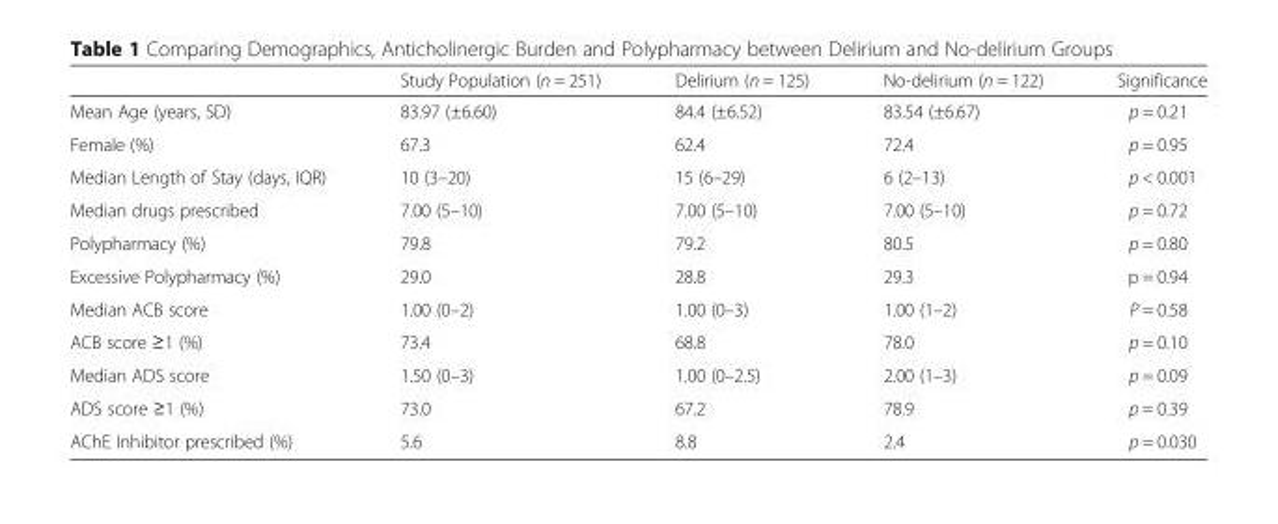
<table><thead><tr><td></td><td>Study Population (n = 251)</td><td>Delirium (n = 125)</td><td>No-delirium (n = 122)</td><td>Significance</td></tr></thead><tbody><tr><td>Mean Age (years, SD)</td><td>83.97 (±6.60)</td><td>84.4 (±6.52)</td><td>83.54 (±6.67)</td><td>p = 0.21</td></tr><tr><td>Female (%)</td><td>67.3</td><td>62.4</td><td>72.4</td><td>p = 0.95</td></tr><tr><td>Median Length of Stay (days, IQR)</td><td>10 (3–20)</td><td>15 (6–29)</td><td>6 (2–13)</td><td>p &lt; 0.001</td></tr><tr><td>Median drugs prescribed</td><td>7.00 (5–10)</td><td>7.00 (5–10)</td><td>7.00 (5–10)</td><td>p = 0.72</td></tr><tr><td>Polypharmacy (%)</td><td>79.8</td><td>79.2</td><td>80.5</td><td>p = 0.80</td></tr><tr><td>Excessive Polypharmacy (%)</td><td>29.0</td><td>28.8</td><td>29.3</td><td>p = 0.94</td></tr><tr><td>Median ACB score</td><td>1.00 (0–2)</td><td>1.00 (0–3)</td><td>1.00 (1–2)</td><td>P = 0.58</td></tr><tr><td>ACB score ≥1 (%)</td><td>73.4</td><td>68.8</td><td>78.0</td><td>p = 0.10</td></tr><tr><td>Median ADS score</td><td>1.50 (0–3)</td><td>1.00 (0–2.5)</td><td>2.00 (1–3)</td><td>p = 0.09</td></tr><tr><td>ADS score ≥1 (%)</td><td>73.0</td><td>67.2</td><td>78.9</td><td>p = 0.39</td></tr><tr><td>AChE Inhibitor prescribed (%)</td><td>5.6</td><td>8.8</td><td>2.4</td><td>p = 0.030</td></tr></tbody></table>